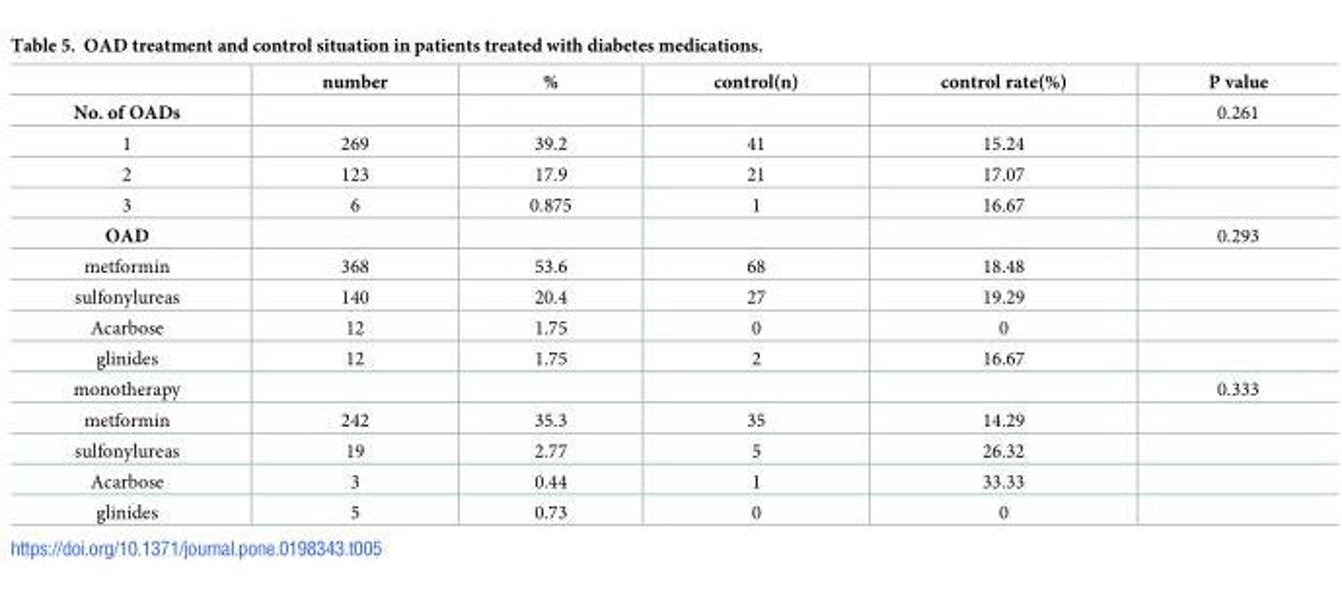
<table><thead><tr><td></td><td>number</td><td>%</td><td>control(n)</td><td>control rate(%)</td><td>P value</td></tr></thead><tbody><tr><td>No. of OADs</td><td></td><td></td><td></td><td></td><td>0.261</td></tr><tr><td>1</td><td>269</td><td>39.2</td><td>41</td><td>15.24</td><td></td></tr><tr><td>2</td><td>123</td><td>17.9</td><td>21</td><td>17.07</td><td></td></tr><tr><td>3</td><td>6</td><td>0.875</td><td>1</td><td>16.67</td><td></td></tr><tr><td>OAD</td><td></td><td></td><td></td><td></td><td>0.293</td></tr><tr><td>metformin</td><td>368</td><td>53.6</td><td>68</td><td>18.48</td><td></td></tr><tr><td>sulfonylureas</td><td>140</td><td>20.4</td><td>27</td><td>19.29</td><td></td></tr><tr><td>Acarbose</td><td>12</td><td>1.75</td><td>0</td><td>0</td><td></td></tr><tr><td>glinides</td><td>12</td><td>1.75</td><td>2</td><td>16.67</td><td></td></tr><tr><td>monotherapy</td><td></td><td></td><td></td><td></td><td>0.333</td></tr><tr><td>metformin</td><td>242</td><td>35.3</td><td>35</td><td>14.29</td><td></td></tr><tr><td>sulfonylureas</td><td>19</td><td>2.77</td><td>5</td><td>26.32</td><td></td></tr><tr><td>Acarbose</td><td>3</td><td>0.44</td><td>1</td><td>33.33</td><td></td></tr><tr><td>glinides</td><td>5</td><td>0.73</td><td>0</td><td>0</td><td></td></tr></tbody></table>